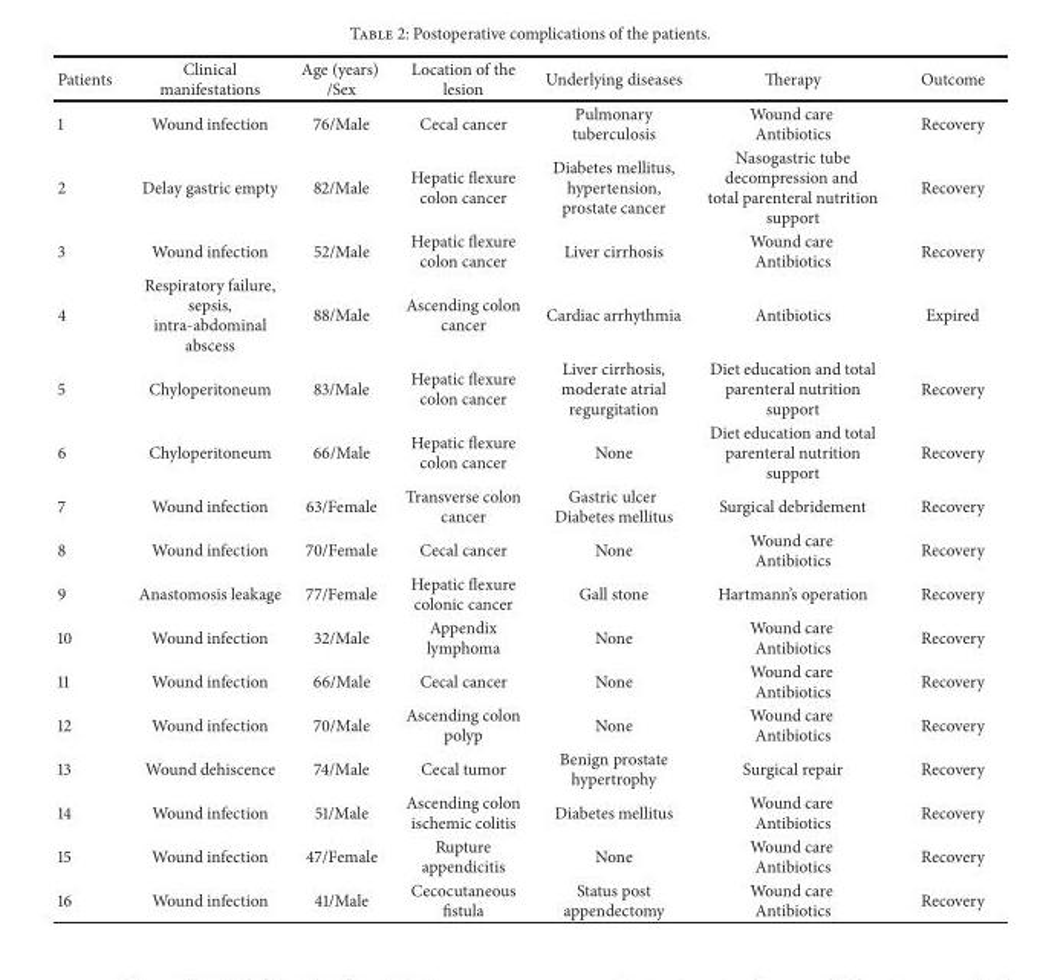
<table><thead><tr><td>Patients</td><td>Clinical manifestations</td><td>Age (years) /Sex</td><td>Location of the lesion</td><td>Underlying diseases</td><td>Therapy</td><td>Outcome</td></tr></thead><tbody><tr><td>1</td><td>Wound infection</td><td>76/Male</td><td>Cecal cancer</td><td>Pulmonary tuberculosis</td><td>Wound care Antibiotics</td><td>Recovery</td></tr><tr><td>2</td><td>Delay gastric empty</td><td>82/Male</td><td>Hepatic flexure colon cancer</td><td>Diabetes mellitus, hypertension, prostate cancer</td><td>Nasogastric tube decompression and total parenteral nutrition support</td><td>Recovery</td></tr><tr><td>3</td><td>Wound infection</td><td>52/Male</td><td>Hepatic flexure colon cancer</td><td>Liver cirrhosis</td><td>Wound care Antibiotics</td><td>Recovery</td></tr><tr><td>4</td><td>Respiratory failure, sepsis, intra-abdominal abscess</td><td>88/Male</td><td>Ascending colon cancer</td><td>Cardiac arrhythmia</td><td>Antibiotics</td><td>Expired</td></tr><tr><td>5</td><td>Chyloperitoneum</td><td>83/Male</td><td>Hepatic flexure colon cancer</td><td>Liver cirrhosis, moderate atrial regurgitation</td><td>Diet education and total parenteral nutrition support</td><td>Recovery</td></tr><tr><td>6</td><td>Chyloperitoneum</td><td>66/Male</td><td>Hepatic flexure colon cancer</td><td>None</td><td>Diet education and total parenteral nutrition support</td><td>Recovery</td></tr><tr><td>7</td><td>Wound infection</td><td>63/Female</td><td>Transverse colon cancer</td><td>Gastric ulcer Diabetes mellitus</td><td>Surgical debridement</td><td>Recovery</td></tr><tr><td>8</td><td>Wound infection</td><td>70/Female</td><td>Cecal cancer</td><td>None</td><td>Wound care Antibiotics</td><td>Recovery</td></tr><tr><td>9</td><td>Anastomosis leakage</td><td>77/Female</td><td>Hepatic flexure colonic cancer</td><td>Gall stone</td><td>Hartmann’s operation</td><td>Recovery</td></tr><tr><td>10</td><td>Wound infection</td><td>32/Male</td><td>Appendix lymphoma</td><td>None</td><td>Wound care Antibiotics</td><td>Recovery</td></tr><tr><td>11</td><td>Wound infection</td><td>66/Male</td><td>Cecal cancer</td><td>None</td><td>Wound care Antibiotics</td><td>Recovery</td></tr><tr><td>12</td><td>Wound infection</td><td>70/Male</td><td>Ascending colon polyp</td><td>None</td><td>Wound care Antibiotics</td><td>Recovery</td></tr><tr><td>13</td><td>Wound dehiscence</td><td>74/Male</td><td>Cecal tumor</td><td>Benign prostate hypertrophy</td><td>Surgical repair</td><td>Recovery</td></tr><tr><td>14</td><td>Wound infection</td><td>51/Male</td><td>Ascending colon ischemic colitis</td><td>Diabetes mellitus</td><td>Wound care Antibiotics</td><td>Recovery</td></tr><tr><td>15</td><td>Wound infection</td><td>47/Female</td><td>Rupture appendicitis</td><td>None</td><td>Wound care Antibiotics</td><td>Recovery</td></tr><tr><td>16</td><td>Wound infection</td><td>41/Male</td><td>Cecocutaneous fistula</td><td>Status post appendectomy</td><td>Wound care Antibiotics</td><td>Recovery</td></tr></tbody></table>